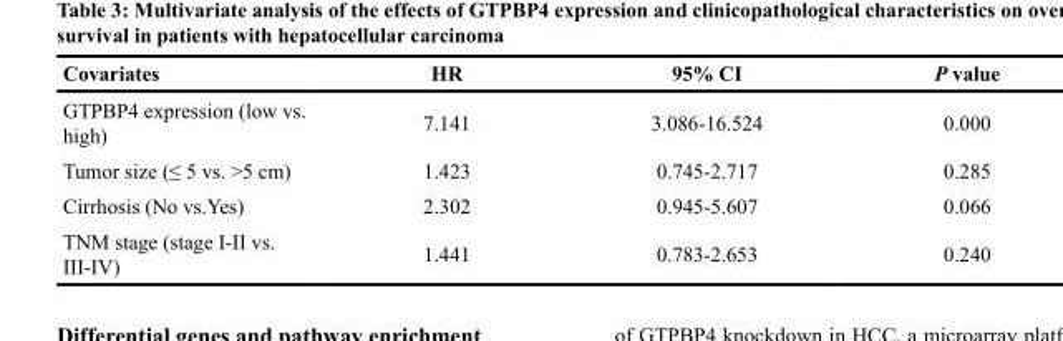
<table><thead><tr><td>Covariates</td><td>HR</td><td>95% CI</td><td>P value</td></tr></thead><tbody><tr><td>GTPBP4 expression (low vs. high)</td><td>7.141</td><td>3.086-16.524</td><td>0.000</td></tr><tr><td>Tumor size (≤ 5 vs. &gt;5 cm)</td><td>1.423</td><td>0.745-2.717</td><td>0.285</td></tr><tr><td>Cirrhosis (No vs.Yes)</td><td>2.302</td><td>0.945-5.607</td><td>0.066</td></tr><tr><td>TNM stage (stage I-II vs. III-IV)</td><td>1.441</td><td>0.783-2.653</td><td>0.240</td></tr></tbody></table>